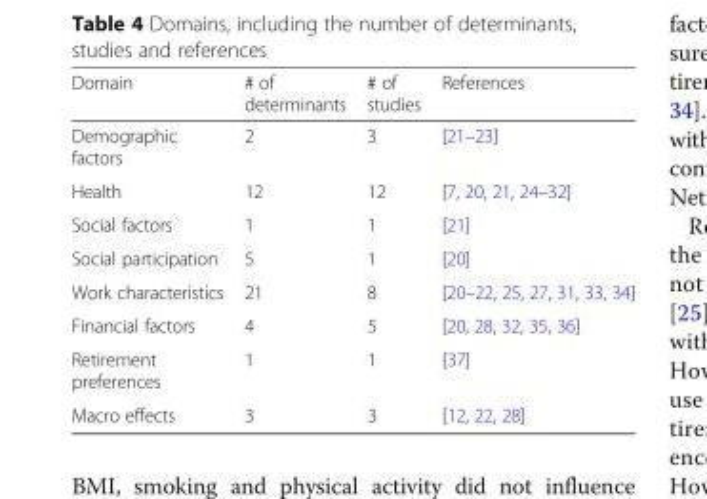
<table><thead><tr><td>Domain</td><td># of determinants</td><td># of studies</td><td>References</td></tr></thead><tbody><tr><td>Demographic factors</td><td>2</td><td>3</td><td>[21–23]</td></tr><tr><td>Health</td><td>12</td><td>12</td><td>[7, 20, 21, 24–32]</td></tr><tr><td>Social factors</td><td>1</td><td>1</td><td>[21]</td></tr><tr><td>Social participation</td><td>5</td><td>1</td><td>[20]</td></tr><tr><td>Work characteristics</td><td>21</td><td>8</td><td>[20–22, 25, 27, 31, 33, 34]</td></tr><tr><td>Financial factors</td><td>4</td><td>5</td><td>[20, 28, 32, 35, 36]</td></tr><tr><td>Retirement preferences</td><td>1</td><td>1</td><td>[37]</td></tr><tr><td>Macro effects</td><td>3</td><td>3</td><td>[12, 22, 28]</td></tr></tbody></table>